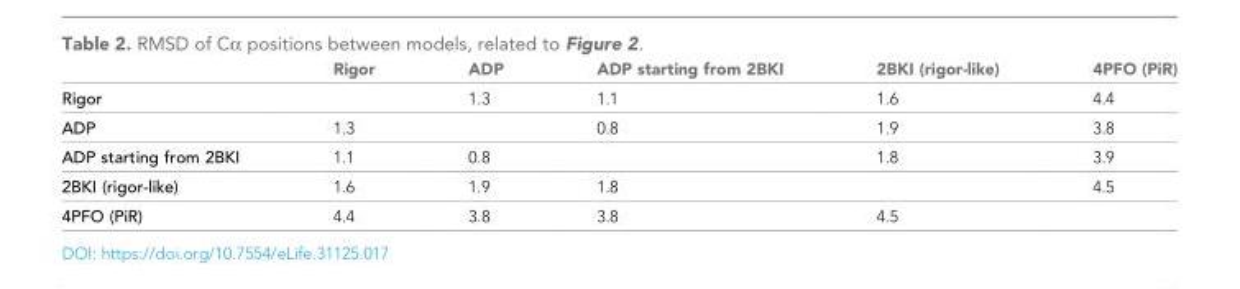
<table><thead><tr><td></td><td>Rigor</td><td>ADP</td><td>ADP starting from 2BKI</td><td>2BKI (rigor-like)</td><td>4PFO (PiR)</td></tr></thead><tbody><tr><td>Rigor</td><td></td><td>1.3</td><td>1.1</td><td>1.6</td><td>4.4</td></tr><tr><td>ADP</td><td>1.3</td><td></td><td>0.8</td><td>1.9</td><td>3.8</td></tr><tr><td>ADP starting from 2BKI</td><td>1.1</td><td>0.8</td><td></td><td>1.8</td><td>3.9</td></tr><tr><td>2BKI (rigor-like)</td><td>1.6</td><td>1.9</td><td>1.8</td><td></td><td>4.5</td></tr><tr><td>4PFO (PiR)</td><td>4.4</td><td>3.8</td><td>3.8</td><td>4.5</td><td></td></tr></tbody></table>